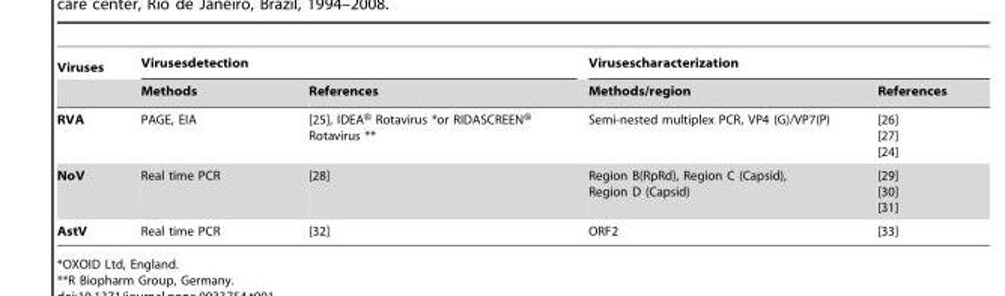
<table><thead><tr><td rowspan="2">Viruses</td><td colspan="2">Virusesdetection</td><td colspan="2">Virusescharacterization</td></tr><tr><td>Methods</td><td>References</td><td>Methods/region</td><td>References</td></tr></thead><tbody><tr><td>RVA</td><td>PAGE, EIA</td><td>[25], IDEA® Rotavirus *or RIDASCREEN® Rotavirus **</td><td>Semi-nested multiplex PCR, VP4 (G)/VP7(P)</td><td>[26] [27] [24]</td></tr><tr><td>NoV</td><td>Real time PCR</td><td>[28]</td><td>Region B(RpRd), Region C (Capsid), Region D (Capsid)</td><td>[29] [30] [31]</td></tr><tr><td>AstV</td><td>Real time PCR</td><td>[32]</td><td>ORF2</td><td>[33]</td></tr></tbody></table>